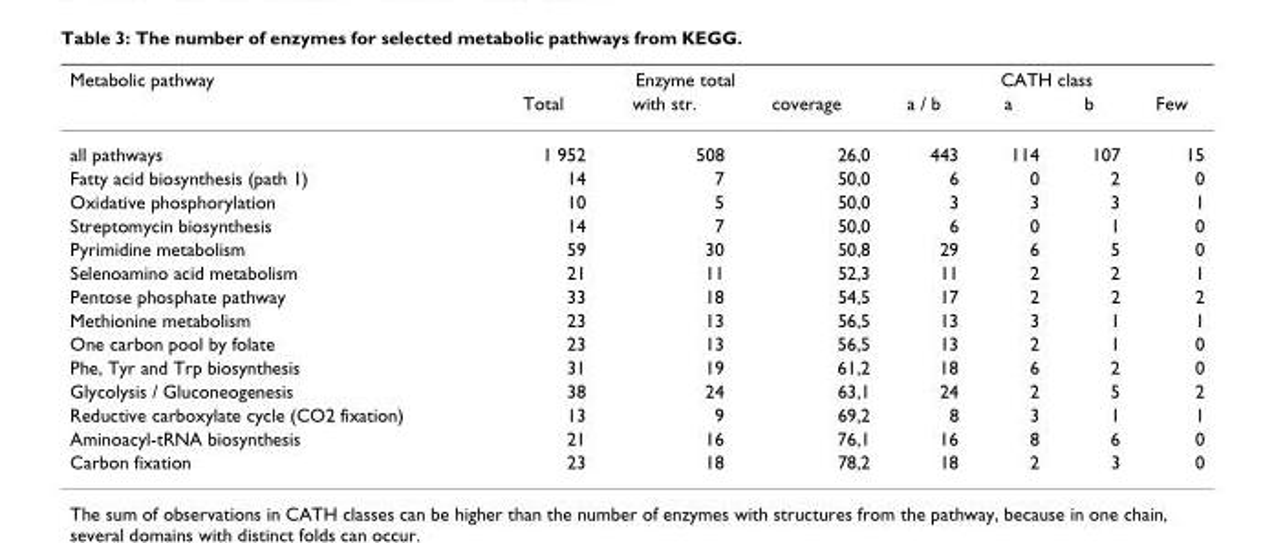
<table><thead><tr><td rowspan="2">Metabolic pathway</td><td colspan="3">Enzyme total</td><td colspan="4">CATH class</td></tr><tr><td>Total</td><td>with str.</td><td>coverage</td><td>a / b</td><td>a</td><td>b</td><td>Few</td></tr></thead><tbody><tr><td>all pathways</td><td>1 952</td><td>508</td><td>26,0</td><td>443</td><td>114</td><td>107</td><td>15</td></tr><tr><td>Fatty acid biosynthesis (path 1)</td><td>14</td><td>7</td><td>50,0</td><td>6</td><td>0</td><td>2</td><td>0</td></tr><tr><td>Oxidative phosphorylation</td><td>10</td><td>5</td><td>50,0</td><td>3</td><td>3</td><td>3</td><td>1</td></tr><tr><td>Streptomycin biosynthesis</td><td>14</td><td>7</td><td>50,0</td><td>6</td><td>0</td><td>1</td><td>0</td></tr><tr><td>Pyrimidine metabolism</td><td>59</td><td>30</td><td>50,8</td><td>29</td><td>6</td><td>5</td><td>0</td></tr><tr><td>Selenoamino acid metabolism</td><td>21</td><td>11</td><td>52,3</td><td>11</td><td>2</td><td>2</td><td>1</td></tr><tr><td>Pentose phosphate pathway</td><td>33</td><td>18</td><td>54,5</td><td>17</td><td>2</td><td>2</td><td>2</td></tr><tr><td>Methionine metabolism</td><td>23</td><td>13</td><td>56,5</td><td>13</td><td>3</td><td>1</td><td>1</td></tr><tr><td>One carbon pool by folate</td><td>23</td><td>13</td><td>56,5</td><td>13</td><td>2</td><td>1</td><td>0</td></tr><tr><td>Phe, Tyr and Trp biosynthesis</td><td>31</td><td>19</td><td>61,2</td><td>18</td><td>6</td><td>2</td><td>0</td></tr><tr><td>Glycolysis / Gluconeogenesis</td><td>38</td><td>24</td><td>63,1</td><td>24</td><td>2</td><td>5</td><td>2</td></tr><tr><td>Reductive carboxylate cycle (CO2 fixation)</td><td>13</td><td>9</td><td>69,2</td><td>8</td><td>3</td><td>1</td><td>1</td></tr><tr><td>Aminoacyl-tRNA biosynthesis</td><td>21</td><td>16</td><td>76,1</td><td>16</td><td>8</td><td>6</td><td>0</td></tr><tr><td>Carbon fixation</td><td>23</td><td>18</td><td>78,2</td><td>18</td><td>2</td><td>3</td><td>0</td></tr></tbody></table>